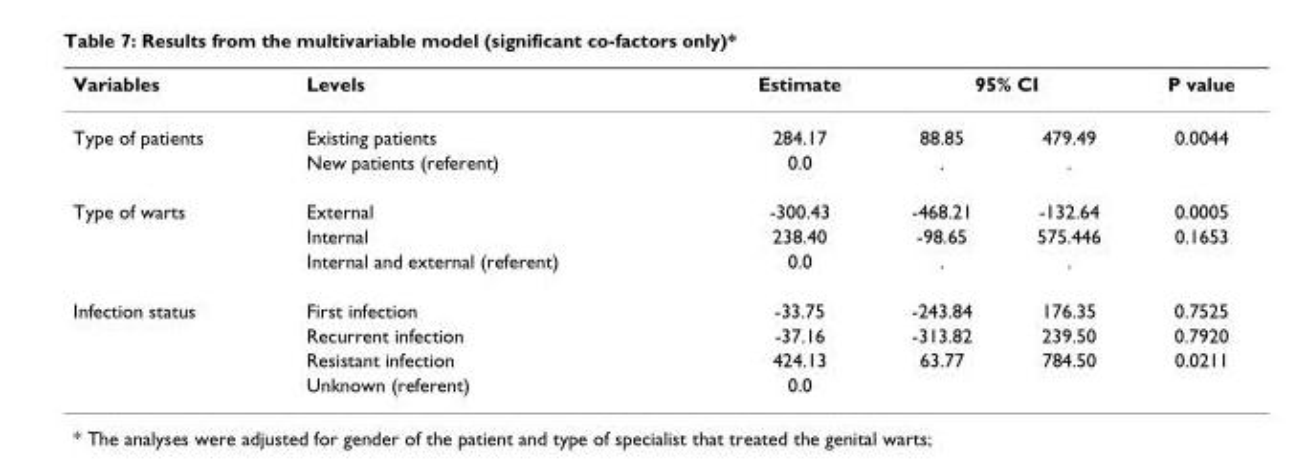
<table><thead><tr><td rowspan="2">Variables Type of patients</td><td rowspan="2">Levels Existing patients</td><td rowspan="2">Estimate 284.17</td><td colspan="2">95% CI</td><td rowspan="2">P value 0.0044</td></tr><tr><td>88.85</td><td>479.49</td></tr></thead><tbody><tr><td></td><td>New patients (referent)</td><td>0.0</td><td>.</td><td>.</td><td></td></tr><tr><td rowspan="3">Type of warts</td><td>External</td><td>-300.43</td><td>-468.21</td><td>-132.64</td><td>0.0005</td></tr><tr><td>Internal</td><td>238.40</td><td>-98.65</td><td>575.446</td><td>0.1653</td></tr><tr><td>Internal and external (referent)</td><td>0.0</td><td>.</td><td>.</td><td></td></tr><tr><td rowspan="4">Infection status</td><td>First infection</td><td>-33.75</td><td>-243.84</td><td>176.35</td><td>0.7525</td></tr><tr><td>Recurrent infection</td><td>-37.16</td><td>-313.82</td><td>239.50</td><td>0.7920</td></tr><tr><td>Resistant infection</td><td>424.13</td><td>63.77</td><td>784.50</td><td>0.0211</td></tr><tr><td>Unknown (referent)</td><td>0.0</td><td></td><td></td><td></td></tr></tbody></table>